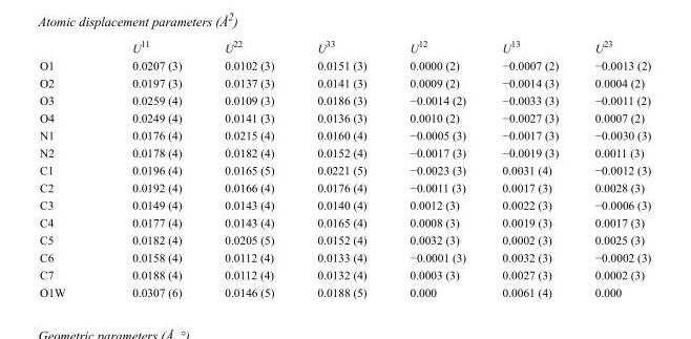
<table><thead><tr><td></td><td>U<sup>11</sup></td><td>U<sup>22</sup></td><td>U<sup>33</sup></td><td>U<sup>12</sup></td><td>U<sup>13</sup></td><td>U<sup>23</sup></td></tr></thead><tbody><tr><td>O1</td><td>0.0207 (3)</td><td>0.0102 (3)</td><td>0.0151 (3)</td><td>0.0000 (2)</td><td>−0.0007 (2)</td><td>−0.0013 (2)</td></tr><tr><td>O2</td><td>0.0197 (3)</td><td>0.0137 (3)</td><td>0.0141 (3)</td><td>0.0009 (2)</td><td>−0.0014 (3)</td><td>0.0004 (2)</td></tr><tr><td>O3</td><td>0.0259 (4)</td><td>0.0109 (3)</td><td>0.0186 (3)</td><td>−0.0014 (2)</td><td>−0.0033 (3)</td><td>−0.0011 (2)</td></tr><tr><td>O4</td><td>0.0249 (4)</td><td>0.0141 (3)</td><td>0.0136 (3)</td><td>0.0010 (2)</td><td>−0.0027 (3)</td><td>0.0007 (2)</td></tr><tr><td>N1</td><td>0.0176 (4)</td><td>0.0215 (4)</td><td>0.0160 (4)</td><td>−0.0005 (3)</td><td>−0.0017 (3)</td><td>−0.0030 (3)</td></tr><tr><td>N2</td><td>0.0178 (4)</td><td>0.0182 (4)</td><td>0.0152 (4)</td><td>−0.0017 (3)</td><td>−0.0019 (3)</td><td>0.0011 (3)</td></tr><tr><td>C1</td><td>0.0196 (4)</td><td>0.0165 (5)</td><td>0.0221 (5)</td><td>−0.0023 (3)</td><td>0.0031 (4)</td><td>−0.0012 (3)</td></tr><tr><td>C2</td><td>0.0192 (4)</td><td>0.0166 (4)</td><td>0.0176 (4)</td><td>−0.0011 (3)</td><td>0.0017 (3)</td><td>0.0028 (3)</td></tr><tr><td>C3</td><td>0.0149 (4)</td><td>0.0143 (4)</td><td>0.0140 (4)</td><td>0.0012 (3)</td><td>0.0022 (3)</td><td>−0.0006 (3)</td></tr><tr><td>C4</td><td>0.0177 (4)</td><td>0.0143 (4)</td><td>0.0165 (4)</td><td>0.0008 (3)</td><td>0.0019 (3)</td><td>0.0017 (3)</td></tr><tr><td>C5</td><td>0.0182 (4)</td><td>0.0205 (5)</td><td>0.0152 (4)</td><td>0.0032 (3)</td><td>0.0002 (3)</td><td>0.0025 (3)</td></tr><tr><td>C6</td><td>0.0158 (4)</td><td>0.0112 (4)</td><td>0.0133 (4)</td><td>−0.0001 (3)</td><td>0.0032 (3)</td><td>−0.0002 (3)</td></tr><tr><td>C7</td><td>0.0188 (4)</td><td>0.0112 (4)</td><td>0.0132 (4)</td><td>0.0003 (3)</td><td>0.0027 (3)</td><td>0.0002 (3)</td></tr><tr><td>O1W</td><td>0.0307 (6)</td><td>0.0146 (5)</td><td>0.0188 (5)</td><td>0.000</td><td>0.0061 (4)</td><td>0.000</td></tr></tbody></table>